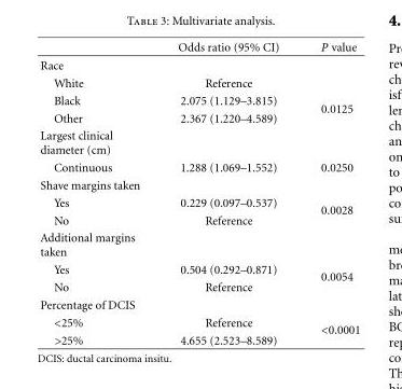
<table><thead><tr><td></td><td>Odds ratio (95% CI)</td><td>P value</td></tr></thead><tbody><tr><td colspan="3">Race</td></tr><tr><td>White</td><td>Reference</td><td></td></tr><tr><td>Black</td><td>2.075 (1.129–3.815)</td><td rowspan="2">0.0125</td></tr><tr><td>Other</td><td>2.367 (1.220–4.589)</td></tr><tr><td colspan="3">Largest clinical diameter (cm)</td></tr><tr><td>Continuous</td><td>1.288 (1.069–1.552)</td><td>0.0250</td></tr><tr><td colspan="3">Shave margins taken</td></tr><tr><td>Yes</td><td>0.229 (0.097–0.537)</td><td rowspan="2">0.0028</td></tr><tr><td>No</td><td>Reference</td></tr><tr><td colspan="3">Additional margins taken</td></tr><tr><td>Yes</td><td>0.504 (0.292–0.871)</td><td rowspan="2">0.0054</td></tr><tr><td>No</td><td>Reference</td></tr><tr><td colspan="3">Percentage of DCIS</td></tr><tr><td>&lt;25%</td><td>Reference</td><td rowspan="2">&lt;0.0001</td></tr><tr><td>&gt;25%</td><td>4.655 (2.523–8.589)</td></tr></tbody></table>